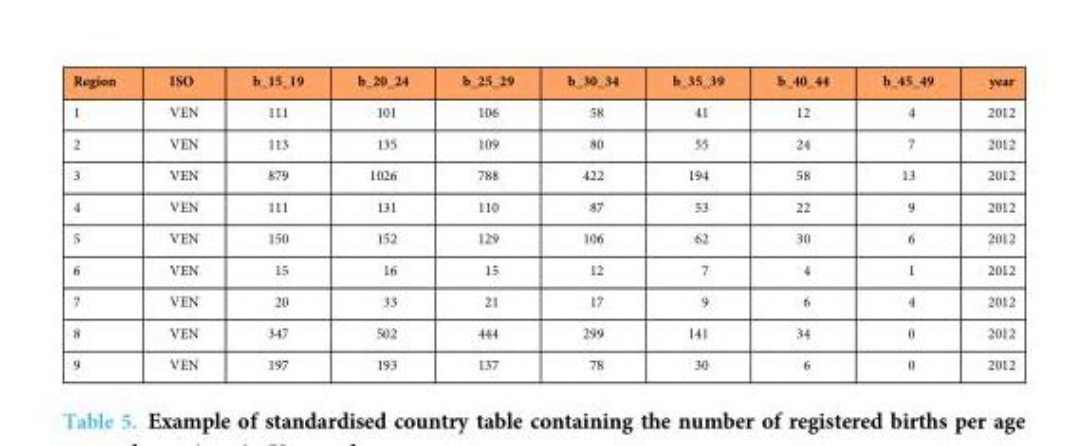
<table><thead><tr><td>Region</td><td>ISO</td><td>b_15_19</td><td>b_20_24</td><td>b_25_29</td><td>b_30_34</td><td>b_35_39</td><td>b_40_44</td><td>b_45_49</td><td>year</td></tr></thead><tbody><tr><td>1</td><td>VEN</td><td>111</td><td>101</td><td>106</td><td>58</td><td>41</td><td>12</td><td>4</td><td>2012</td></tr><tr><td>2</td><td>VEN</td><td>113</td><td>135</td><td>109</td><td>80</td><td>55</td><td>24</td><td>7</td><td>2012</td></tr><tr><td>3</td><td>VEN</td><td>879</td><td>1026</td><td>788</td><td>422</td><td>194</td><td>58</td><td>13</td><td>2012</td></tr><tr><td>4</td><td>VEN</td><td>111</td><td>131</td><td>110</td><td>87</td><td>53</td><td>22</td><td>9</td><td>2012</td></tr><tr><td>5</td><td>VEN</td><td>150</td><td>152</td><td>129</td><td>106</td><td>62</td><td>30</td><td>6</td><td>2012</td></tr><tr><td>6</td><td>VEN</td><td>15</td><td>16</td><td>15</td><td>12</td><td>7</td><td>4</td><td>1</td><td>2012</td></tr><tr><td>7</td><td>VEN</td><td>20</td><td>33</td><td>21</td><td>17</td><td>9</td><td>6</td><td>4</td><td>2012</td></tr><tr><td>8</td><td>VEN</td><td>347</td><td>502</td><td>444</td><td>299</td><td>141</td><td>34</td><td>0</td><td>2012</td></tr><tr><td>9</td><td>VEN</td><td>197</td><td>193</td><td>137</td><td>78</td><td>30</td><td>6</td><td>0</td><td>2012</td></tr></tbody></table>